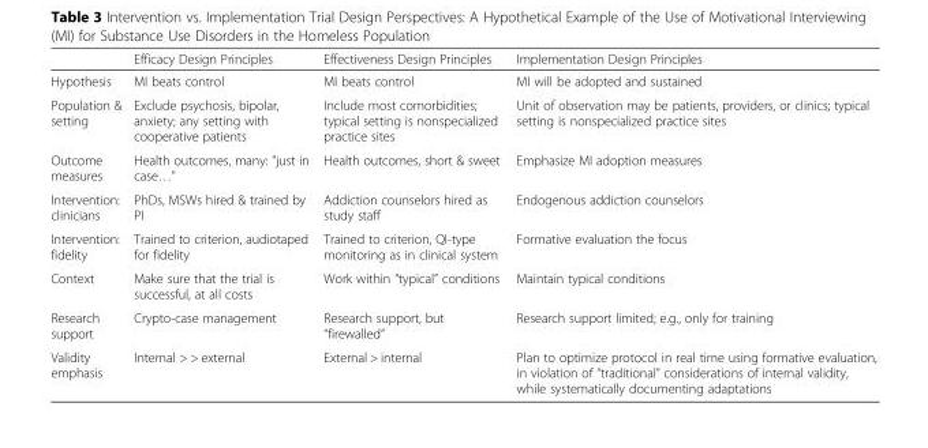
<table><thead><tr><td></td><td>Efficacy Design Principles</td><td>Effectiveness Design Principles</td><td>Implementation Design Principles</td></tr></thead><tbody><tr><td>Hypothesis</td><td>MI beats control</td><td>MI beats control</td><td>MI will be adopted and sustained</td></tr><tr><td>Population &amp; setting</td><td>Exclude psychosis, bipolar, anxiety; any setting with cooperative patients</td><td>Include most comorbidities; typical setting is nonspecialized practice sites</td><td>Unit of observation may be patients, providers, or clinics; typical setting is nonspecialized practice sites</td></tr><tr><td>Outcome measures</td><td>Health outcomes, many: &quot;just in case…&quot;</td><td>Health outcomes, short &amp; sweet</td><td>Emphasize MI adoption measures</td></tr><tr><td>Intervention: clinicians</td><td>PhDs, MSWs hired &amp; trained by PI</td><td>Addiction counselors hired as study staff</td><td>Endogenous addiction counselors</td></tr><tr><td>Intervention: fidelity</td><td>Trained to criterion, audiotaped for fidelity</td><td>Trained to criterion, QI-type monitoring as in clinical system</td><td>Formative evaluation the focus</td></tr><tr><td>Context</td><td>Make sure that the trial is successful, at all costs</td><td>Work within “typical” conditions</td><td>Maintain typical conditions</td></tr><tr><td>Research support</td><td>Crypto-case management</td><td>Research support, but “firewalled”</td><td>Research support limited; e.g., only for training</td></tr><tr><td>Validity emphasis</td><td>Internal &gt; &gt; external</td><td>External &gt; internal</td><td>Plan to optimize protocol in real time using formative evaluation, in violation of “traditional” considerations of internal validity, while systematically documenting adaptations</td></tr></tbody></table>